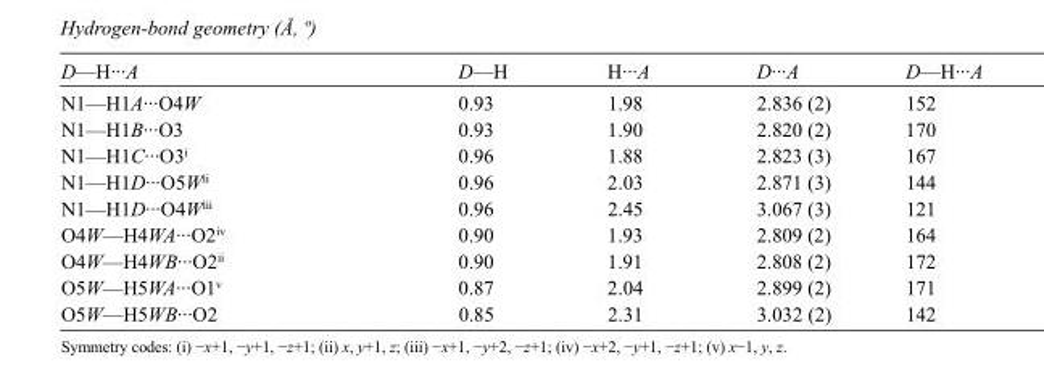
<table><tbody><tr><td>D—H···A</td><td>D—H</td><td>H···A</td><td>D···A</td><td>D—H···A</td></tr><tr><td>N1—H1A···O4W</td><td>0.93</td><td>1.98</td><td>2.836 (2)</td><td>152</td></tr><tr><td>N1—H1B···O3</td><td>0.93</td><td>1.90</td><td>2.820 (2)</td><td>170</td></tr><tr><td>N1—H1C···O3<sup>i</sup></td><td>0.96</td><td>1.88</td><td>2.823 (3)</td><td>167</td></tr><tr><td>N1—H1D···O5W<sup>ii</sup></td><td>0.96</td><td>2.03</td><td>2.871 (3)</td><td>144</td></tr><tr><td>N1—H1D···O4W<sup>iii</sup></td><td>0.96</td><td>2.45</td><td>3.067 (3)</td><td>121</td></tr><tr><td>O4W—H4WA···O2<sup>iv</sup></td><td>0.90</td><td>1.93</td><td>2.809 (2)</td><td>164</td></tr><tr><td>O4W—H4WB···O2<sup>ii</sup></td><td>0.90</td><td>1.91</td><td>2.808 (2)</td><td>172</td></tr><tr><td>O5W—H5WA···O1<sup>v</sup></td><td>0.87</td><td>2.04</td><td>2.899 (2)</td><td>171</td></tr><tr><td>O5W—H5WB···O2</td><td>0.85</td><td>2.31</td><td>3.032 (2)</td><td>142</td></tr></tbody></table>